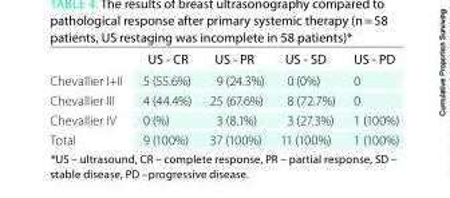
<table><thead><tr><td></td><td>uS - CR</td><td>uS - PR</td><td>uS - SD</td><td>uS - PD</td></tr></thead><tbody><tr><td>Chevallier I+II</td><td>5 (55.6%)</td><td>9 (24.3%)</td><td>0 (0%)</td><td>0</td></tr><tr><td>Chevallier III</td><td>4 (44.4%)</td><td>25 (67.6%)</td><td>8 (72.7%)</td><td>0</td></tr><tr><td>Chevallier IV</td><td>0 (%)</td><td>3 (8.1%)</td><td>3 (27.3%)</td><td>1 (100%)</td></tr><tr><td>Total</td><td>9 (100%)</td><td>37 (100%)</td><td>11 (100%)</td><td>1 (100%)</td></tr></tbody></table>